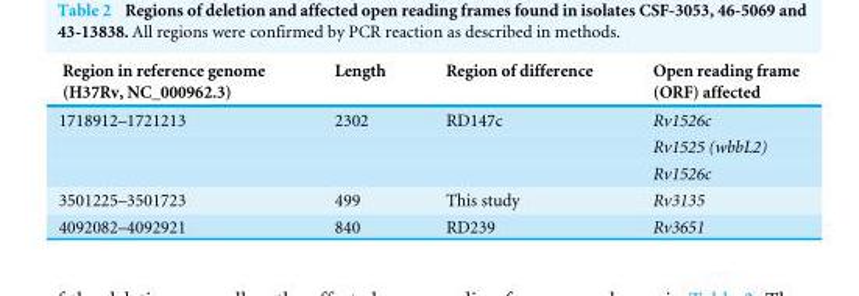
<table><thead><tr><td>Region in reference genome (H37Rv, NC_000962.3)</td><td>Length</td><td>Region of difference</td><td>Open reading frame (ORF) affected</td></tr></thead><tbody><tr><td rowspan="3">1718912–1721213</td><td>2302</td><td>RD147c</td><td>Rv1526c</td></tr><tr><td></td><td></td><td>Rv1525 (wbbL2)</td></tr><tr><td></td><td></td><td>Rv1526c</td></tr><tr><td>3501225–3501723</td><td>499</td><td>This study</td><td>Rv3135</td></tr><tr><td>4092082–4092921</td><td>840</td><td>RD239</td><td>Rv3651</td></tr></tbody></table>